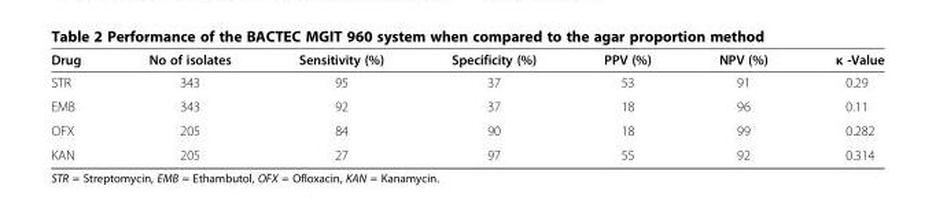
<table><thead><tr><td>Drug</td><td>No of isolates</td><td>Sensitivity (%)</td><td>Specificity (%)</td><td>PPV (%)</td><td>NPV (%)</td><td>κ -Value</td></tr></thead><tbody><tr><td>STR</td><td>343</td><td>95</td><td>37</td><td>53</td><td>91</td><td>0.29</td></tr><tr><td>EMB</td><td>343</td><td>92</td><td>37</td><td>18</td><td>96</td><td>0.11</td></tr><tr><td>OFX</td><td>205</td><td>84</td><td>90</td><td>18</td><td>99</td><td>0.282</td></tr><tr><td>KAN</td><td>205</td><td>27</td><td>97</td><td>55</td><td>92</td><td>0.314</td></tr></tbody></table>